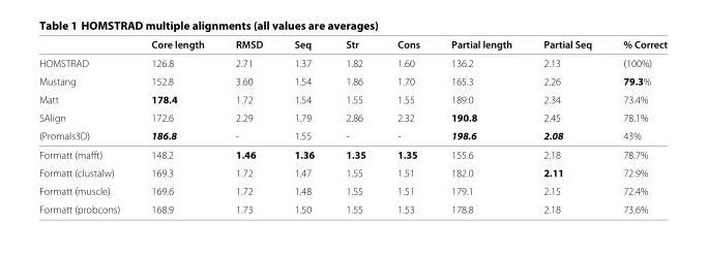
<table><thead><tr><td></td><td>Core length</td><td>RMSD</td><td>Seq</td><td>Str</td><td>Cons</td><td>Partial length</td><td>Partial Seq</td><td>% Correct</td></tr></thead><tbody><tr><td>HOMSTRAD</td><td>126.8</td><td>2.71</td><td>1.37</td><td>1.82</td><td>1.60</td><td>136.2</td><td>2.13</td><td>(100%)</td></tr><tr><td>Mustang</td><td>152.8</td><td>3.60</td><td>1.54</td><td>1.86</td><td>1.70</td><td>165.3</td><td>2.26</td><td>79.3%</td></tr><tr><td>Matt</td><td>178.4</td><td>1.72</td><td>1.54</td><td>1.55</td><td>1.55</td><td>189.0</td><td>2.34</td><td>73.4%</td></tr><tr><td>SAlign</td><td>172.6</td><td>2.29</td><td>1.79</td><td>2.86</td><td>2.32</td><td>190.8</td><td>2.45</td><td>78.1%</td></tr><tr><td>(Promals3D)</td><td>186.8</td><td>-</td><td>1.55</td><td>-</td><td>-</td><td>198.6</td><td>2.08</td><td>43%</td></tr><tr><td>Formatt (mafft)</td><td>148.2</td><td>1.46</td><td>1.36</td><td>1.35</td><td>1.35</td><td>155.6</td><td>2.18</td><td>78.7%</td></tr><tr><td>Formatt (clustalw)</td><td>169.3</td><td>1.72</td><td>1.47</td><td>1.55</td><td>1.51</td><td>182.0</td><td>2.11</td><td>72.9%</td></tr><tr><td>Formatt (muscle)</td><td>169.6</td><td>1.72</td><td>1.48</td><td>1.55</td><td>1.51</td><td>179.1</td><td>2.15</td><td>72.4%</td></tr><tr><td>Formatt (probcons)</td><td>168.9</td><td>1.73</td><td>1.50</td><td>1.55</td><td>1.53</td><td>178.8</td><td>2.18</td><td>73.6%</td></tr></tbody></table>